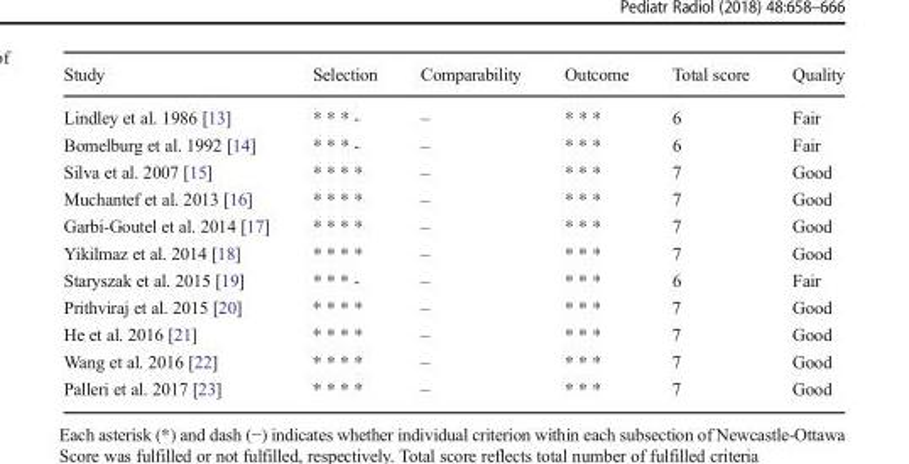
<table><thead><tr><td>Study</td><td>Selection</td><td>Comparability</td><td>Outcome</td><td>Total score</td><td>Quality</td></tr></thead><tbody><tr><td>Lindley et al. 1986 [13]</td><td>* * * -</td><td>–</td><td>* * *</td><td>6</td><td>Fair</td></tr><tr><td>Bomelburg et al. 1992 [14]</td><td>* * * -</td><td>–</td><td>* * *</td><td>6</td><td>Fair</td></tr><tr><td>Silva et al. 2007 [15]</td><td>* * * *</td><td>–</td><td>* * *</td><td>7</td><td>Good</td></tr><tr><td>Muchantef et al. 2013 [16]</td><td>* * * *</td><td>–</td><td>* * *</td><td>7</td><td>Good</td></tr><tr><td>Garbi-Goutel et al. 2014 [17]</td><td>* * * *</td><td>–</td><td>* * *</td><td>7</td><td>Good</td></tr><tr><td>Yikilmaz et al. 2014 [18]</td><td>* * * *</td><td>–</td><td>* * *</td><td>7</td><td>Good</td></tr><tr><td>Staryszak et al. 2015 [19]</td><td>* * * -</td><td>–</td><td>* * *</td><td>6</td><td>Fair</td></tr><tr><td>Prithviraj et al. 2015 [20]</td><td>* * * *</td><td>–</td><td>* * *</td><td>7</td><td>Good</td></tr><tr><td>He et al. 2016 [21]</td><td>* * * *</td><td>–</td><td>* * *</td><td>7</td><td>Good</td></tr><tr><td>Wang et al. 2016 [22]</td><td>* * * *</td><td>–</td><td>* * *</td><td>7</td><td>Good</td></tr><tr><td>Palleri et al. 2017 [23]</td><td>* * * *</td><td>–</td><td>* * *</td><td>7</td><td>Good</td></tr></tbody></table>